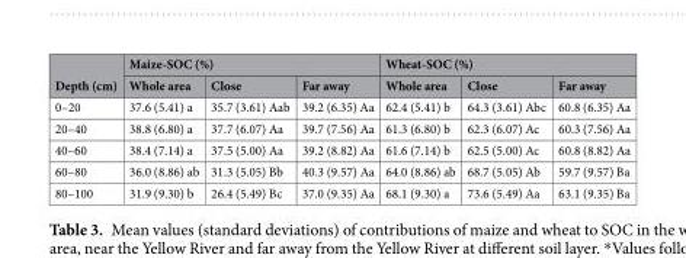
<table><thead><tr><td rowspan="2">Depth (cm)</td><td colspan="3">Maize-SOC (%)</td><td colspan="3">Wheat-SOC (%)</td></tr><tr><td>Whole area</td><td>Close</td><td>Far away</td><td>Whole area</td><td>Close</td><td>Far away</td></tr></thead><tbody><tr><td>0–20</td><td>37.6 (5.41) a</td><td>35.7 (3.61) Aab</td><td>39.2 (6.35) Aa</td><td>62.4 (5.41) b</td><td>64.3 (3.61) Abc</td><td>60.8 (6.35) Aa</td></tr><tr><td>20–40</td><td>38.8 (6.80) a</td><td>37.7 (6.07) Aa</td><td>39.7 (7.56) Aa</td><td>61.3 (6.80) b</td><td>62.3 (6.07) Ac</td><td>60.3 (7.56) Aa</td></tr><tr><td>40–60</td><td>38.4 (7.14) a</td><td>37.5 (5.00) Aa</td><td>39.2 (8.82) Aa</td><td>61.6 (7.14) b</td><td>62.5 (5.00) Ac</td><td>60.8 (8.82) Aa</td></tr><tr><td>60–80</td><td>36.0 (8.86) ab</td><td>31.3 (5.05) Bb</td><td>40.3 (9.57) Aa</td><td>64.0 (8.86) ab</td><td>68.7 (5.05) Ab</td><td>59.7 (9.57) Ba</td></tr><tr><td>80–100</td><td>31.9 (9.30) b</td><td>26.4 (5.49) Bc</td><td>37.0 (9.35) Aa</td><td>68.1 (9.30) a</td><td>73.6 (5.49) Aa</td><td>63.1 (9.35) Ba</td></tr></tbody></table>